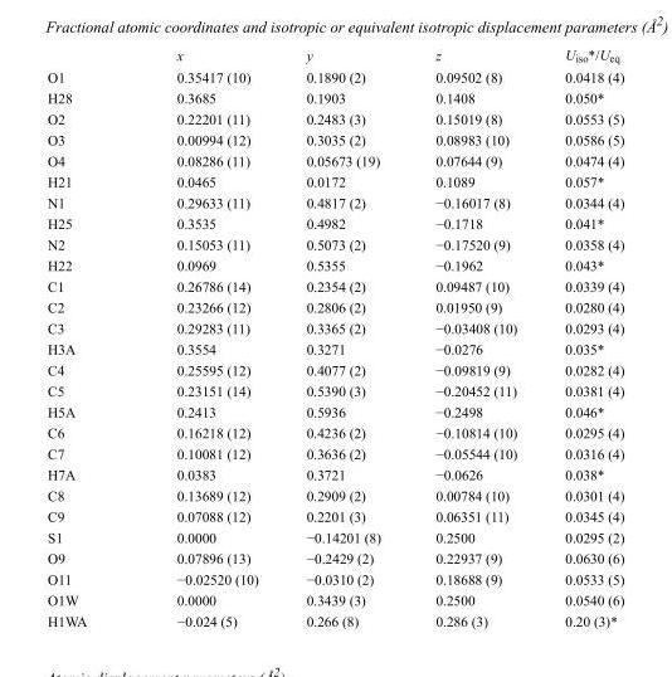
<table><thead><tr><td></td><td>x</td><td>y</td><td>z</td><td>U<sub>iso</sub>*/U<sub>eq</sub></td></tr></thead><tbody><tr><td>O1</td><td>0.35417 (10)</td><td>0.1890 (2)</td><td>0.09502 (8)</td><td>0.0418 (4)</td></tr><tr><td>H28</td><td>0.3685</td><td>0.1903</td><td>0.1408</td><td>0.050*</td></tr><tr><td>O2</td><td>0.22201 (11)</td><td>0.2483 (3)</td><td>0.15019 (8)</td><td>0.0553 (5)</td></tr><tr><td>O3</td><td>0.00994 (12)</td><td>0.3035 (2)</td><td>0.08983 (10)</td><td>0.0586 (5)</td></tr><tr><td>O4</td><td>0.08286 (11)</td><td>0.05673 (19)</td><td>0.07644 (9)</td><td>0.0474 (4)</td></tr><tr><td>H21</td><td>0.0465</td><td>0.0172</td><td>0.1089</td><td>0.057*</td></tr><tr><td>N1</td><td>0.29633 (11)</td><td>0.4817 (2)</td><td>−0.16017 (8)</td><td>0.0344 (4)</td></tr><tr><td>H25</td><td>0.3535</td><td>0.4982</td><td>−0.1718</td><td>0.041*</td></tr><tr><td>N2</td><td>0.15053 (11)</td><td>0.5073 (2)</td><td>−0.17520 (9)</td><td>0.0358 (4)</td></tr><tr><td>H22</td><td>0.0969</td><td>0.5355</td><td>−0.1962</td><td>0.043*</td></tr><tr><td>C1</td><td>0.26786 (14)</td><td>0.2354 (2)</td><td>0.09487 (10)</td><td>0.0339 (4)</td></tr><tr><td>C2</td><td>0.23266 (12)</td><td>0.2806 (2)</td><td>0.01950 (9)</td><td>0.0280 (4)</td></tr><tr><td>C3</td><td>0.29283 (11)</td><td>0.3365 (2)</td><td>−0.03408 (10)</td><td>0.0293 (4)</td></tr><tr><td>H3A</td><td>0.3554</td><td>0.3271</td><td>−0.0276</td><td>0.035*</td></tr><tr><td>C4</td><td>0.25595 (12)</td><td>0.4077 (2)</td><td>−0.09819 (9)</td><td>0.0282 (4)</td></tr><tr><td>C5</td><td>0.23151 (14)</td><td>0.5390 (3)</td><td>−0.20452 (11)</td><td>0.0381 (4)</td></tr><tr><td>H5A</td><td>0.2413</td><td>0.5936</td><td>−0.2498</td><td>0.046*</td></tr><tr><td>C6</td><td>0.16218 (12)</td><td>0.4236 (2)</td><td>−0.10814 (10)</td><td>0.0295 (4)</td></tr><tr><td>C7</td><td>0.10081 (12)</td><td>0.3636 (2)</td><td>−0.05544 (10)</td><td>0.0316 (4)</td></tr><tr><td>H7A</td><td>0.0383</td><td>0.3721</td><td>−0.0626</td><td>0.038*</td></tr><tr><td>C8</td><td>0.13689 (12)</td><td>0.2909 (2)</td><td>0.00784 (10)</td><td>0.0301 (4)</td></tr><tr><td>C9</td><td>0.07088 (12)</td><td>0.2201 (3)</td><td>0.06351 (11)</td><td>0.0345 (4)</td></tr><tr><td>S1</td><td>0.0000</td><td>−0.14201 (8)</td><td>0.2500</td><td>0.0295 (2)</td></tr><tr><td>O9</td><td>0.07896 (13)</td><td>−0.2429 (2)</td><td>0.22937 (9)</td><td>0.0630 (6)</td></tr><tr><td>O11</td><td>−0.02520 (10)</td><td>−0.0310 (2)</td><td>0.18688 (9)</td><td>0.0533 (5)</td></tr><tr><td>O1W</td><td>0.0000</td><td>0.3439 (3)</td><td>0.2500</td><td>0.0540 (6)</td></tr><tr><td>H1WA</td><td>−0.024 (5)</td><td>0.266 (8)</td><td>0.286 (3)</td><td>0.20 (3)*</td></tr></tbody></table>